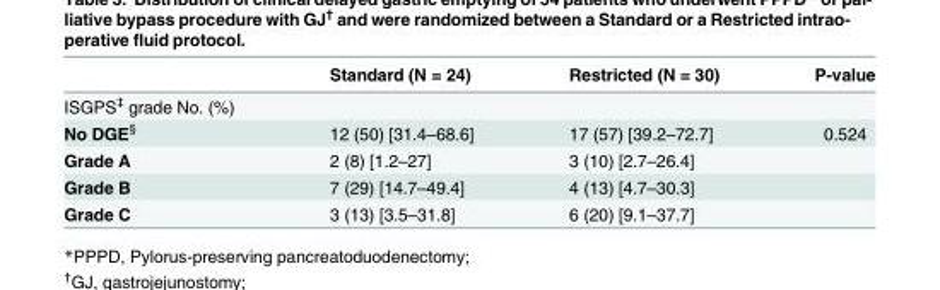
<table><thead><tr><td></td><td>Standard (N = 24)</td><td>Restricted (N = 30)</td><td>P-value</td></tr></thead><tbody><tr><td colspan="4">ISGPS<sup>‡</sup> grade No. (%)</td></tr><tr><td>No DGE<sup>§</sup></td><td>12 (50) [31.4–68.6]</td><td>17 (57) [39.2–72.7]</td><td>0.524</td></tr><tr><td>Grade A</td><td>2 (8) [1.2–27]</td><td>3 (10) [2.7–26.4]</td><td></td></tr><tr><td>Grade B</td><td>7 (29) [14.7–49.4]</td><td>4 (13) [4.7–30.3]</td><td></td></tr><tr><td>Grade C</td><td>3 (13) [3.5–31.8]</td><td>6 (20) [9.1–37.7]</td><td></td></tr></tbody></table>